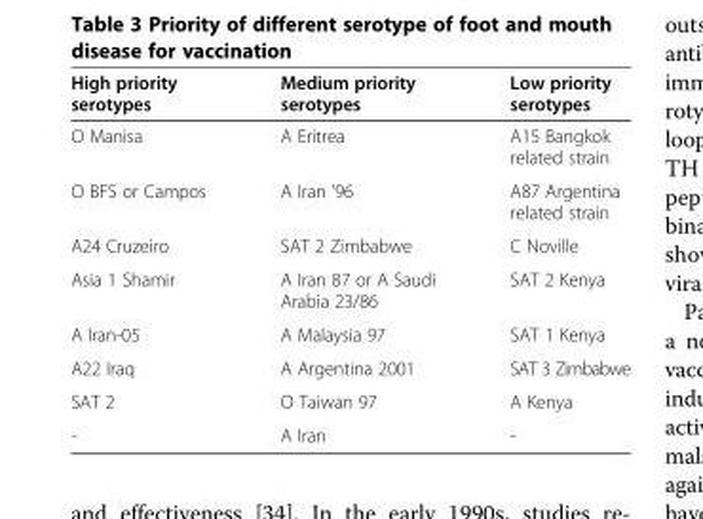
<table><thead><tr><td>High priority serotypes</td><td>Medium priority serotypes</td><td>Low priority serotypes</td></tr></thead><tbody><tr><td>O Manisa</td><td>A Eritrea</td><td>A15 Bangkok related strain</td></tr><tr><td>O BFS or Campos</td><td>A Iran ’96</td><td>A87 Argentina related strain</td></tr><tr><td>A24 Cruzeiro</td><td>SAT 2 Zimbabwe</td><td>C Noville</td></tr><tr><td>Asia 1 Shamir</td><td>A Iran 87 or A Saudi Arabia 23/86</td><td>SAT 2 Kenya</td></tr><tr><td>A Iran-05</td><td>A Malaysia 97</td><td>SAT 1 Kenya</td></tr><tr><td>A22 Iraq</td><td>A Argentina 2001</td><td>SAT 3 Zimbabwe</td></tr><tr><td>SAT 2</td><td>O Taiwan 97</td><td>A Kenya</td></tr><tr><td>-</td><td>A Iran</td><td>-</td></tr></tbody></table>